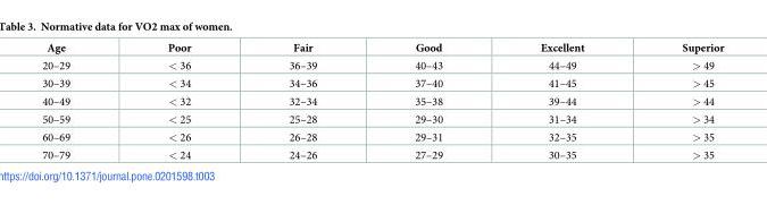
<table><thead><tr><td>Age</td><td>Poor</td><td>Fair</td><td>Good</td><td>Excellent</td><td>Superior</td></tr></thead><tbody><tr><td>20–29</td><td>&lt; 36</td><td>36–39</td><td>40–43</td><td>44–49</td><td>&gt; 49</td></tr><tr><td>30–39</td><td>&lt; 34</td><td>34–36</td><td>37–40</td><td>41–45</td><td>&gt; 45</td></tr><tr><td>40–49</td><td>&lt; 32</td><td>32–34</td><td>35–38</td><td>39–44</td><td>&gt; 44</td></tr><tr><td>50–59</td><td>&lt; 25</td><td>25–28</td><td>29–30</td><td>31–34</td><td>&gt; 34</td></tr><tr><td>60–69</td><td>&lt; 26</td><td>26–28</td><td>29–31</td><td>32–35</td><td>&gt; 35</td></tr><tr><td>70–79</td><td>&lt; 24</td><td>24–26</td><td>27–29</td><td>30–35</td><td>&gt; 35</td></tr></tbody></table>